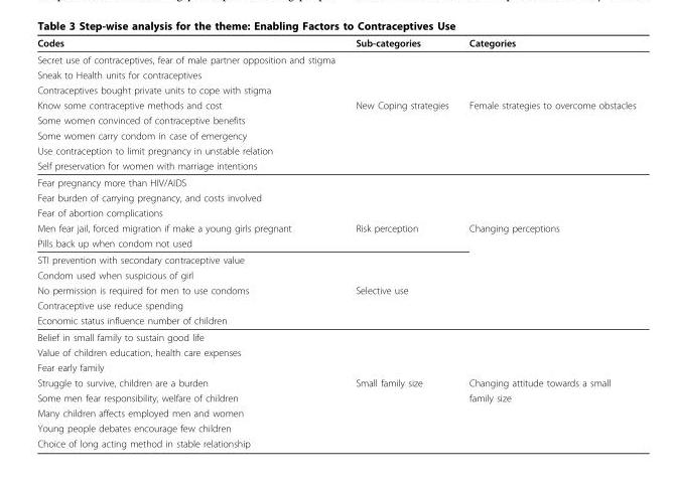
<table><thead><tr><td>Codes</td><td>Sub-categories</td><td>Categories</td></tr></thead><tbody><tr><td colspan="3">Secret use of contraceptives, fear of male partner opposition and stigma</td></tr><tr><td colspan="3">Sneak to Health units for contraceptives</td></tr><tr><td colspan="3">Contraceptives bought private units to cope with stigma</td></tr><tr><td>Know some contraceptive methods and cost</td><td>New Coping strategies</td><td>Female strategies to overcome obstacles</td></tr><tr><td colspan="3">Some women convinced of contraceptive benefits</td></tr><tr><td colspan="3">Some women carry condom in case of emergency</td></tr><tr><td colspan="3">Use contraception to limit pregnancy in unstable relation</td></tr><tr><td colspan="3">Self preservation for women with marriage intentions</td></tr><tr><td colspan="3">Fear pregnancy more than HIV/AIDS</td></tr><tr><td colspan="3">Fear burden of carrying pregnancy, and costs involved</td></tr><tr><td colspan="3">Fear of abortion complications</td></tr><tr><td>Men fear jail, forced migration if make a young girls pregnant</td><td>Risk perception</td><td>Changing perceptions</td></tr><tr><td colspan="3">Pills back up when condom not used</td></tr><tr><td colspan="3">STI prevention with secondary contraceptive value</td></tr><tr><td colspan="3">Condom used when suspicious of girl</td></tr><tr><td>No permission is required for men to use condoms</td><td>Selective use</td><td></td></tr><tr><td colspan="3">Contraceptive use reduce spending</td></tr><tr><td colspan="3">Economic status influence number of children</td></tr><tr><td colspan="3">Belief in small family to sustain good life</td></tr><tr><td colspan="3">Value of children education, health care expenses</td></tr><tr><td colspan="3">Fear early family</td></tr><tr><td>Struggle to survive, children are a burden</td><td>Small family size</td><td>Changing attitude towards a small</td></tr><tr><td>Some men fear responsibility, welfare of children</td><td></td><td>family size</td></tr><tr><td colspan="3">Many children affects employed men and women</td></tr><tr><td colspan="3">Young people debates encourage few children</td></tr><tr><td>Choice of long acting method in stable relationship</td><td></td><td></td></tr></tbody></table>